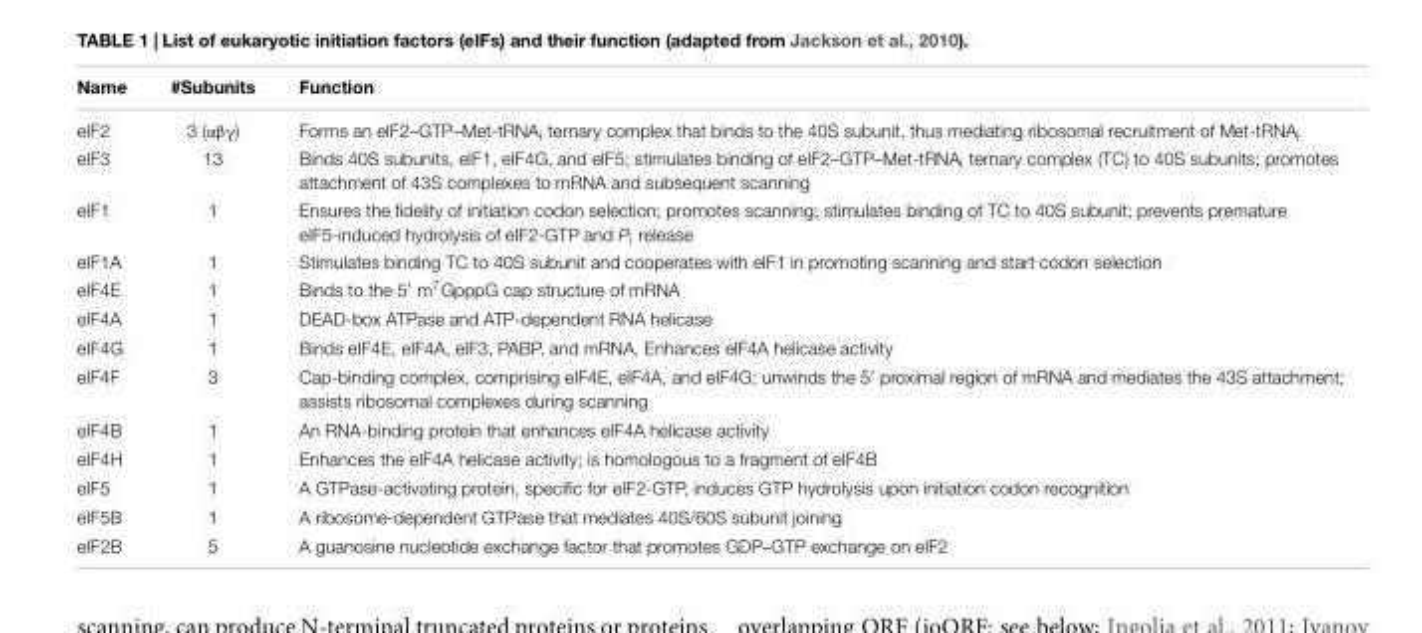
<table><thead><tr><td>Name</td><td>#Subunits</td><td>Function</td></tr></thead><tbody><tr><td>eIF2</td><td>3 (αβγ)</td><td>Forms an eIF2–GTP–Met-tRNA<sub>i</sub> ternary complex that binds to the 40S subunit, thus mediating ribosomal recruitment of Met-tRNA<sub>i</sub></td></tr><tr><td>eIF3</td><td>13</td><td>Binds 40S subunits, eIF1, eIF4G, and eIF5; stimulates binding of eIF2–GTP–Met-tRNA<sub>i</sub> ternary complex (TC) to 40S subunits; promotes attachment of 43S complexes to mRNA and subsequent scanning</td></tr><tr><td>eIF1</td><td>1</td><td>Ensures the fidelity of initiation codon selection; promotes scanning; stimulates binding of TC to 40S subunit; prevents premature eIF5-induced hydrolysis of eIF2-GTP and P<sub>i</sub> release</td></tr><tr><td>eIF1A</td><td>1</td><td>Stimulates binding TC to 40S subunit and cooperates with eIF1 in promoting scanning and start codon selection</td></tr><tr><td>eIF4E</td><td>1</td><td>Binds to the 5′ m<sup>7</sup>GpppG cap structure of mRNA</td></tr><tr><td>eIF4A</td><td>1</td><td>DEAD-box ATPase and ATP-dependent RNA helicase</td></tr><tr><td>eIF4G</td><td>1</td><td>Binds eIF4E, eIF4A, eIF3, PABP, and mRNA. Enhances elF4A helicase activity</td></tr><tr><td>eIF4F</td><td>3</td><td>Cap-binding complex, comprising eIF4E, eIF4A, and eIF4G; unwinds the 5′ proximal region of mRNA and mediates the 43S attachment; assists ribosomal complexes during scanning</td></tr><tr><td>eIF4B</td><td>1</td><td>An RNA-binding protein that enhances eIF4A helicase activity</td></tr><tr><td>eIF4H</td><td>1</td><td>Enhances the eIF4A helicase activity; is homologous to a fragment of eIF4B</td></tr><tr><td>eIF5</td><td>1</td><td>A GTPase-activating protein, specific for eIF2-GTP, induces GTP hydrolysis upon initiation codon recognition</td></tr><tr><td>eIF5B</td><td>1</td><td>A ribosome-dependent GTPase that mediates 40S/60S subunit joining</td></tr><tr><td>eIF2B</td><td>5</td><td>A guanosine nucleotide exchange factor that promotes GDP–GTP exchange on eIF2</td></tr></tbody></table>